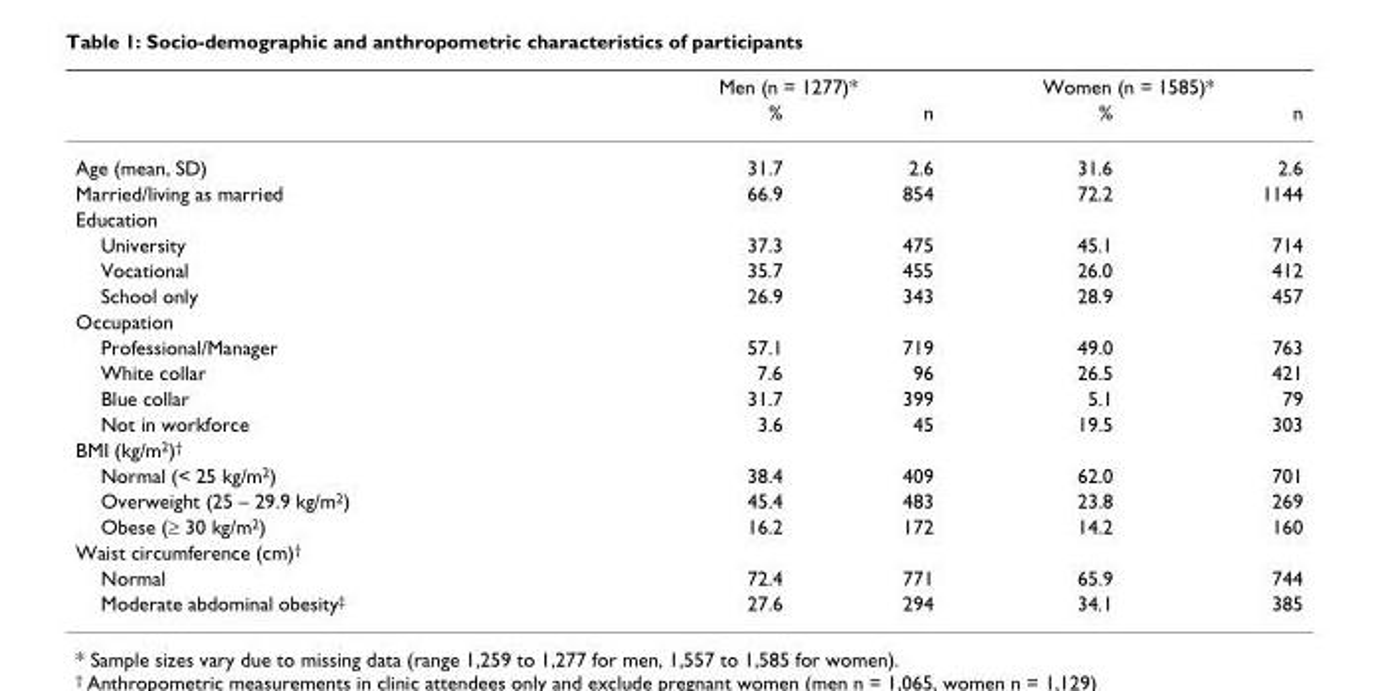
<table><thead><tr><td rowspan="2"></td><td colspan="2">Men (n = 1277)*</td><td colspan="2">Women (n = 1585)*</td></tr><tr><td>%</td><td>n</td><td>%</td><td>n</td></tr></thead><tbody><tr><td>Age (mean, SD)</td><td>31.7</td><td>2.6</td><td>31.6</td><td>2.6</td></tr><tr><td>Married/living as married</td><td>66.9</td><td>854</td><td>72.2</td><td>1144</td></tr><tr><td colspan="5">Education</td></tr><tr><td>University</td><td>37.3</td><td>475</td><td>45.1</td><td>714</td></tr><tr><td>Vocational</td><td>35.7</td><td>455</td><td>26.0</td><td>412</td></tr><tr><td>School only</td><td>26.9</td><td>343</td><td>28.9</td><td>457</td></tr><tr><td colspan="5">Occupation</td></tr><tr><td>Professional/Manager</td><td>57.1</td><td>719</td><td>49.0</td><td>763</td></tr><tr><td>White collar</td><td>7.6</td><td>96</td><td>26.5</td><td>421</td></tr><tr><td>Blue collar</td><td>31.7</td><td>399</td><td>5.1</td><td>79</td></tr><tr><td>Not in workforce</td><td>3.6</td><td>45</td><td>19.5</td><td>303</td></tr><tr><td colspan="5">BMI (kg/m<sup>2</sup>)<sup>†</sup></td></tr><tr><td>Normal (&lt; 25 kg/m<sup>2</sup>)</td><td>38.4</td><td>409</td><td>62.0</td><td>701</td></tr><tr><td>Overweight (25 – 29.9 kg/m<sup>2</sup>)</td><td>45.4</td><td>483</td><td>23.8</td><td>269</td></tr><tr><td>Obese (≥ 30 kg/m<sup>2</sup>)</td><td>16.2</td><td>172</td><td>14.2</td><td>160</td></tr><tr><td colspan="5">Waist circumference (cm)<sup>†</sup></td></tr><tr><td>Normal</td><td>72.4</td><td>771</td><td>65.9</td><td>744</td></tr><tr><td>Moderate abdominal obesity<sup>‡</sup></td><td>27.6</td><td>294</td><td>34.1</td><td>385</td></tr></tbody></table>